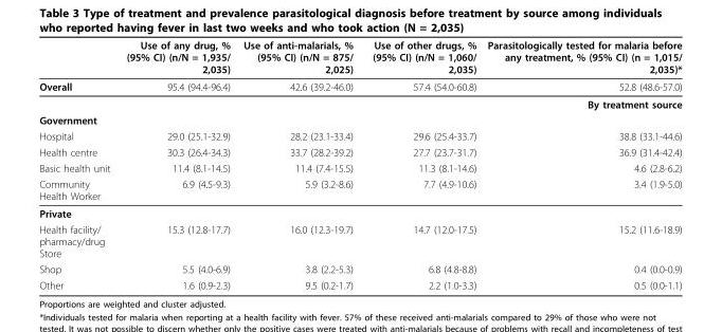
<table><thead><tr><td></td><td>Use of any drug, % (95% CI) (n/N = 1,935/ 2,035)</td><td>Use of anti-malarials, % (95% CI) (n/N = 875/ 2,025)</td><td>Use of other drugs, % (95% CI) (n/N = 1,060/ 2,035)</td><td>Parasitologically tested for malaria before any treatment, % (95% CI) (n = 1,015/ 2,035)*</td></tr></thead><tbody><tr><td>Overall</td><td>95.4 (94.4-96.4)</td><td>42.6 (39.2-46.0)</td><td>57.4 (54.0-60.8)</td><td>52.8 (48.6-57.0)</td></tr><tr><td colspan="5">By treatment source</td></tr><tr><td colspan="5">Government</td></tr><tr><td>Hospital</td><td>29.0 (25.1-32.9)</td><td>28.2 (23.1-33.4)</td><td>29.6 (25.4-33.7)</td><td>38.8 (33.1-44.6)</td></tr><tr><td>Health centre</td><td>30.3 (26.4-34.3)</td><td>33.7 (28.2-39.2)</td><td>27.7 (23.7-31.7)</td><td>36.9 (31.4-42.4)</td></tr><tr><td>Basic health unit</td><td>11.4 (8.1-14.5)</td><td>11.4 (7.4-15.5)</td><td>11.3 (8.1-14.6)</td><td>4.6 (2.8-6.2)</td></tr><tr><td>Community Health Worker</td><td>6.9 (4.5-9.3)</td><td>5.9 (3.2-8.6)</td><td>7.7 (4.9-10.6)</td><td>3.4 (1.9-5.0)</td></tr><tr><td colspan="5">Private</td></tr><tr><td>Health facility/ pharmacy/drug Store</td><td>15.3 (12.8-17.7)</td><td>16.0 (12.3-19.7)</td><td>14.7 (12.0-17.5)</td><td>15.2 (11.6-18.9)</td></tr><tr><td>Shop</td><td>5.5 (4.0-6.9)</td><td>3.8 (2.2-5.3)</td><td>6.8 (4.8-8.8)</td><td>0.4 (0.0-0.9)</td></tr><tr><td>Other</td><td>1.6 (0.9-2.3)</td><td>9.5 (0.2-1.7)</td><td>2.2 (1.0-3.3)</td><td>0.5 (0.0-1.1)</td></tr></tbody></table>